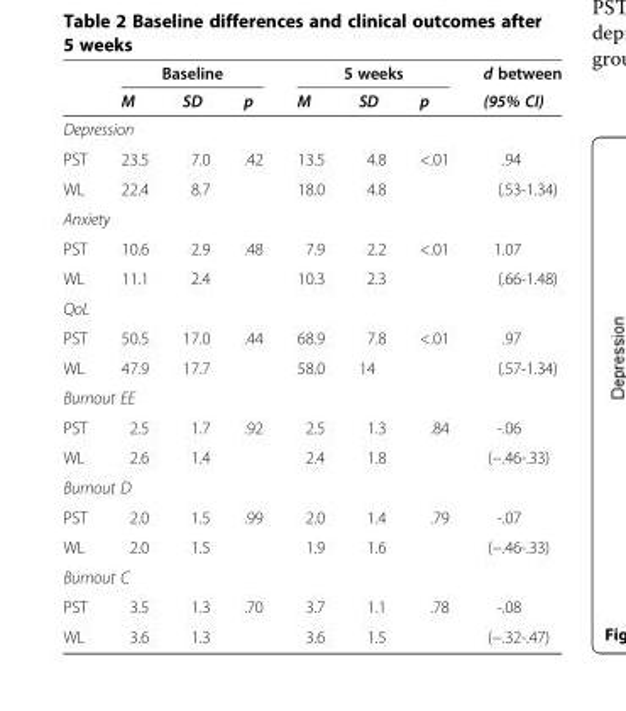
<table><thead><tr><td rowspan="2"></td><td colspan="3">Baseline</td><td colspan="3">5 weeks</td><td rowspan="2">d between (95% CI)</td></tr><tr><td>M</td><td>SD</td><td>p</td><td>M</td><td>SD</td><td>p</td></tr></thead><tbody><tr><td colspan="8">Depression</td></tr><tr><td>PST</td><td>23.5</td><td>7.0</td><td>.42</td><td>13.5</td><td>4.8</td><td>&lt;.01</td><td>.94</td></tr><tr><td>WL</td><td>22.4</td><td>8.7</td><td></td><td>18.0</td><td>4.8</td><td></td><td>(.53-1.34)</td></tr><tr><td colspan="8">Anxiety</td></tr><tr><td>PST</td><td>10.6</td><td>2.9</td><td>.48</td><td>7.9</td><td>2.2</td><td>&lt;.01</td><td>1.07</td></tr><tr><td>WL</td><td>11.1</td><td>2.4</td><td></td><td>10.3</td><td>2.3</td><td></td><td>(.66-1.48)</td></tr><tr><td colspan="8">QoL</td></tr><tr><td>PST</td><td>50.5</td><td>17.0</td><td>.44</td><td>68.9</td><td>7.8</td><td>&lt;.01</td><td>.97</td></tr><tr><td>WL</td><td>47.9</td><td>17.7</td><td></td><td>58.0</td><td>14</td><td></td><td>(.57-1.34)</td></tr><tr><td colspan="8">Burnout EE</td></tr><tr><td>PST</td><td>2.5</td><td>1.7</td><td>.92</td><td>2.5</td><td>1.3</td><td>.84</td><td>-.06</td></tr><tr><td>WL</td><td>2.6</td><td>1.4</td><td></td><td>2.4</td><td>1.8</td><td></td><td>(−.46-.33)</td></tr><tr><td colspan="8">Burnout D</td></tr><tr><td>PST</td><td>2.0</td><td>1.5</td><td>.99</td><td>2.0</td><td>1.4</td><td>.79</td><td>-.07</td></tr><tr><td>WL</td><td>2.0</td><td>1.5</td><td></td><td>1.9</td><td>1.6</td><td></td><td>(−.46-.33)</td></tr><tr><td colspan="8">Burnout C</td></tr><tr><td>PST</td><td>3.5</td><td>1.3</td><td>.70</td><td>3.7</td><td>1.1</td><td>.78</td><td>-.08</td></tr><tr><td>WL</td><td>3.6</td><td>1.3</td><td></td><td>3.6</td><td>1.5</td><td></td><td>(−.32-.47)</td></tr></tbody></table>